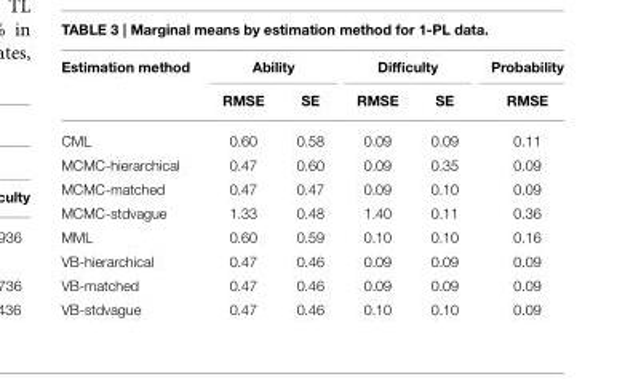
<table><thead><tr><td rowspan="2">Estimation method</td><td colspan="2">Ability</td><td colspan="2">Difficulty</td><td rowspan="2">Probability RMSE</td></tr><tr><td>RMSE</td><td>SE</td><td>RMSE</td><td>SE</td></tr></thead><tbody><tr><td>CML</td><td>0.60</td><td>0.58</td><td>0.09</td><td>0.09</td><td>0.11</td></tr><tr><td>MCMC-hierarchical</td><td>0.47</td><td>0.60</td><td>0.09</td><td>0.35</td><td>0.09</td></tr><tr><td>MCMC-matched</td><td>0.47</td><td>0.47</td><td>0.09</td><td>0.10</td><td>0.09</td></tr><tr><td>MCMC-stdvague</td><td>1.33</td><td>0.48</td><td>1.40</td><td>0.11</td><td>0.36</td></tr><tr><td>MML</td><td>0.60</td><td>0.59</td><td>0.10</td><td>0.10</td><td>0.16</td></tr><tr><td>VB-hierarchical</td><td>0.47</td><td>0.46</td><td>0.09</td><td>0.09</td><td>0.09</td></tr><tr><td>VB-matched</td><td>0.47</td><td>0.46</td><td>0.09</td><td>0.09</td><td>0.09</td></tr><tr><td>VB-stdvague</td><td>0.47</td><td>0.46</td><td>0.10</td><td>0.10</td><td>0.09</td></tr></tbody></table>